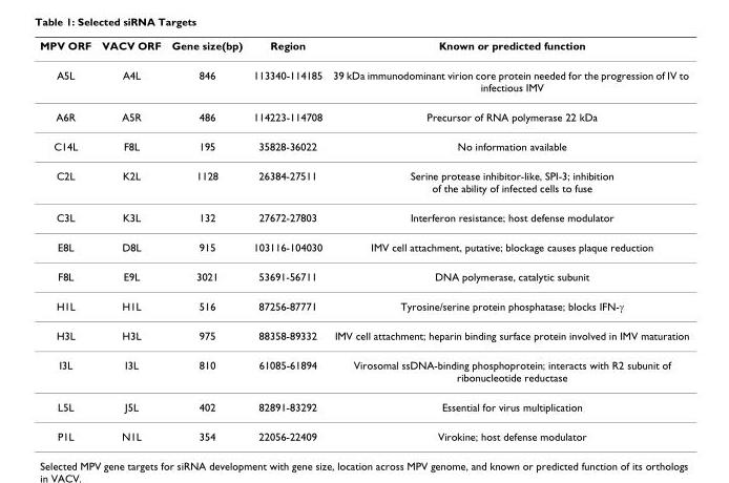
<table><thead><tr><td>MPV ORF</td><td>VACV ORF</td><td>Gene size(bp)</td><td>Region</td><td>Known or predicted function</td></tr></thead><tbody><tr><td>A5L</td><td>A4L</td><td>846</td><td>113340-114185</td><td>39 kDa immunodominant virion core protein needed for the progression of IV to infectious IMV</td></tr><tr><td>A6R</td><td>A5R</td><td>486</td><td>114223-114708</td><td>Precursor of RNA polymerase 22 kDa</td></tr><tr><td>C14L</td><td>F8L</td><td>195</td><td>35828-36022</td><td>No information available</td></tr><tr><td>C2L</td><td>K2L</td><td>1128</td><td>26384-27511</td><td>Serine protease inhibitor-like, SPI-3; inhibition of the ability of infected cells to fuse</td></tr><tr><td>C3L</td><td>K3L</td><td>132</td><td>27672-27803</td><td>Interferon resistance; host defense modulator</td></tr><tr><td>E8L</td><td>D8L</td><td>915</td><td>103116-104030</td><td>IMV cell attachment, putative; blockage causes plaque reduction</td></tr><tr><td>F8L</td><td>E9L</td><td>3021</td><td>53691-56711</td><td>DNA polymerase, catalytic subunit</td></tr><tr><td>H1L</td><td>H1L</td><td>516</td><td>87256-87771</td><td>Tyrosine/serine protein phosphatase; blocks IFN-γ</td></tr><tr><td>H3L</td><td>H3L</td><td>975</td><td>88358-89332</td><td>IMV cell attachment; heparin binding surface protein involved in IMV maturation</td></tr><tr><td>I3L</td><td>I3L</td><td>810</td><td>61085-61894</td><td>Virosomal ssDNA-binding phosphoprotein; interacts with R2 subunit of ribonucleotide reductase</td></tr><tr><td>L5L</td><td>J5L</td><td>402</td><td>82891-83292</td><td>Essential for virus multiplication</td></tr><tr><td>P1L</td><td>N1L</td><td>354</td><td>22056-22409</td><td>Virokine; host defense modulator</td></tr></tbody></table>